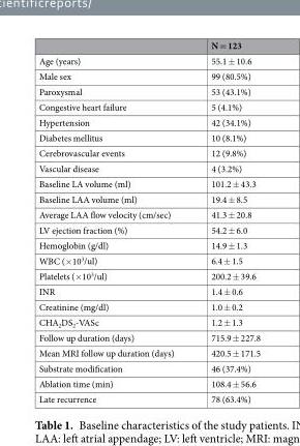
<table><thead><tr><td></td><td>N = 123</td></tr></thead><tbody><tr><td>Age (years)</td><td>55.1 ± 10.6</td></tr><tr><td>Male sex</td><td>99 (80.5%)</td></tr><tr><td>Paroxysmal</td><td>53 (43.1%)</td></tr><tr><td>Congestive heart failure</td><td>5 (4.1%)</td></tr><tr><td>Hypertension</td><td>42 (34.1%)</td></tr><tr><td>Diabetes mellitus</td><td>10 (8.1%)</td></tr><tr><td>Cerebrovascular events</td><td>12 (9.8%)</td></tr><tr><td>Vascular disease</td><td>4 (3.2%)</td></tr><tr><td>Baseline LA volume (ml)</td><td>101.2 ± 43.3</td></tr><tr><td>Baseline LAA volume (ml)</td><td>19.4 ± 8.5</td></tr><tr><td>Average LAA flow velocity (cm/sec)</td><td>41.3 ± 20.8</td></tr><tr><td>LV ejection fraction (%)</td><td>54.2 ± 6.0</td></tr><tr><td>Hemoglobin (g/dl)</td><td>14.9 ± 1.3</td></tr><tr><td>WBC (×10<sup>3</sup>/ul)</td><td>6.4 ± 1.5</td></tr><tr><td>Platelets (×10<sup>3</sup>/ul)</td><td>200.2 ± 39.6</td></tr><tr><td>INR</td><td>1.4 ± 0.6</td></tr><tr><td>Creatinine (mg/dl)</td><td>1.0 ± 0.2</td></tr><tr><td>CHA<sub>2</sub>DS<sub>2</sub>-VASc</td><td>1.2 ± 1.3</td></tr><tr><td>Follow up duration (days)</td><td>715.9 ± 227.8</td></tr><tr><td>Mean MRI follow up duration (days)</td><td>420.5 ± 171.5</td></tr><tr><td>Substrate modification</td><td>46 (37.4%)</td></tr><tr><td>Ablation time (min)</td><td>108.4 ± 56.6</td></tr><tr><td>Late recurrence</td><td>78 (63.4%)</td></tr></tbody></table>